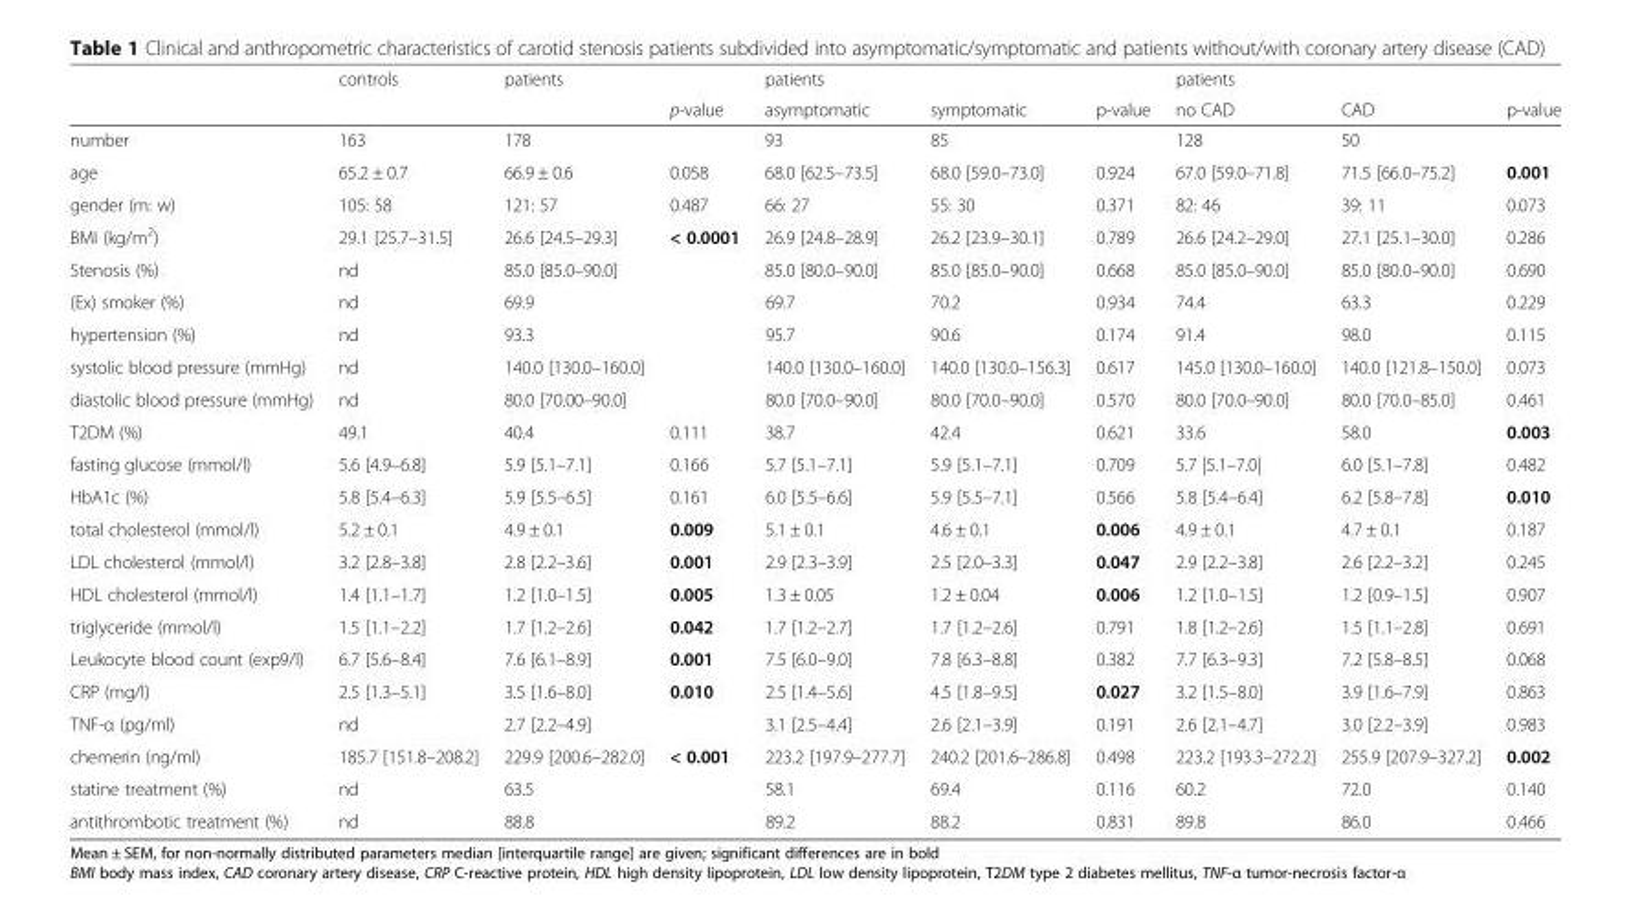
<table><thead><tr><td rowspan="2"></td><td rowspan="2">controls</td><td rowspan="2">patients</td><td rowspan="2">p-value</td><td rowspan="2">patients asymptomatic</td><td rowspan="2">symptomatic</td><td rowspan="2">p-value</td><td rowspan="2">patients no CAD</td><td rowspan="2">CAD</td><td rowspan="2">p-value</td></tr><tr></tr></thead><tbody><tr><td>number</td><td>163</td><td>178</td><td></td><td>93</td><td>85</td><td></td><td>128</td><td>50</td><td></td></tr><tr><td>age</td><td>65.2 ± 0.7</td><td>66.9 ± 0.6</td><td>0.058</td><td>68.0 [62.5–73.5]</td><td>68.0 [59.0–73.0]</td><td>0.924</td><td>67.0 [59.0–71.8]</td><td>71.5 [66.0–75.2]</td><td>0.001</td></tr><tr><td>gender (m: w)</td><td>105: 58</td><td>121: 57</td><td>0.487</td><td>66: 27</td><td>55: 30</td><td>0.371</td><td>82: 46</td><td>39: 11</td><td>0.073</td></tr><tr><td>BMI (kg/m<sup>2</sup>)</td><td>29.1 [25.7–31.5]</td><td>26.6 [24.5–29.3]</td><td>&lt; 0.0001</td><td>26.9 [24.8–28.9]</td><td>26.2 [23.9–30.1]</td><td>0.789</td><td>26.6 [24.2–29.0]</td><td>27.1 [25.1–30.0]</td><td>0.286</td></tr><tr><td>Stenosis (%)</td><td>nd</td><td>85.0 [85.0–90.0]</td><td></td><td>85.0 [80.0–90.0]</td><td>85.0 [85.0–90.0]</td><td>0.668</td><td>85.0 [85.0–90.0]</td><td>85.0 [80.0–90.0]</td><td>0.690</td></tr><tr><td>(Ex) smoker (%)</td><td>nd</td><td>69.9</td><td></td><td>69.7</td><td>70.2</td><td>0.934</td><td>74.4</td><td>63.3</td><td>0.229</td></tr><tr><td>hypertension (%)</td><td>nd</td><td>93.3</td><td></td><td>95.7</td><td>90.6</td><td>0.174</td><td>91.4</td><td>98.0</td><td>0.115</td></tr><tr><td>systolic blood pressure (mmHg)</td><td>nd</td><td>140.0 [130.0–160.0]</td><td></td><td>140.0 [130.0–160.0]</td><td>140.0 [130.0–156.3]</td><td>0.617</td><td>145.0 [130.0–160.0]</td><td>140.0 [121.8–150.0]</td><td>0.073</td></tr><tr><td>diastolic blood pressure (mmHg)</td><td>nd</td><td>80.0 [70.00–90.0]</td><td></td><td>80.0 [70.0–90.0]</td><td>80.0 [70.0–90.0]</td><td>0.570</td><td>80.0 [70.0–90.0]</td><td>80.0 [70.0–85.0]</td><td>0.461</td></tr><tr><td>T2DM (%)</td><td>49.1</td><td>40.4</td><td>0.111</td><td>38.7</td><td>42.4</td><td>0.621</td><td>33.6</td><td>58.0</td><td>0.003</td></tr><tr><td>fasting glucose (mmol/l)</td><td>5.6 [4.9–6.8]</td><td>5.9 [5.1–7.1]</td><td>0.166</td><td>5.7 [5.1–7.1]</td><td>5.9 [5.1–7.1]</td><td>0.709</td><td>5.7 |5.1–7.0|</td><td>6.0 [5.1–7.8]</td><td>0.482</td></tr><tr><td>HbA1c (%)</td><td>5.8 [5.4–6.3]</td><td>5.9 [5.5–6.5]</td><td>0.161</td><td>6.0 [5.5–6.6]</td><td>5.9 [5.5–7.1]</td><td>0.566</td><td>5.8 [5.4–6.4]</td><td>6.2 [5.8–7.8]</td><td>0.010</td></tr><tr><td>total cholesterol (mmol/l)</td><td>5.2 ± 0.1</td><td>4.9 ± 0.1</td><td>0.009</td><td>5.1 ± 0.1</td><td>4.6 ± 0.1</td><td>0.006</td><td>4.9 ± 0.1</td><td>4.7 ± 0.1</td><td>0.187</td></tr><tr><td>LDL cholesterol (mmol/l)</td><td>3.2 [2.8–3.8]</td><td>2.8 [2.2–3.6]</td><td>0.001</td><td>2.9 [2.3–3.9]</td><td>2.5 [2.0–3.3]</td><td>0.047</td><td>2.9 [2.2–3.8]</td><td>2.6 [2.2–3.2]</td><td>0.245</td></tr><tr><td>HDL cholesterol (mmol/l)</td><td>1.4 [1.1–1.7]</td><td>1.2 [1.0–1.5]</td><td>0.005</td><td>1.3 ± 0.05</td><td>1.2 ± 0.04</td><td>0.006</td><td>1.2 [1.0–1.5]</td><td>1.2 [0.9–1.5]</td><td>0.907</td></tr><tr><td>triglyceride (mmol/l)</td><td>1.5 [1.1–2.2]</td><td>1.7 [1.2–2.6]</td><td>0.042</td><td>1.7 [1.2–2.7]</td><td>1.7 [1.2–2.6]</td><td>0.791</td><td>1.8 [1.2–2.6]</td><td>1.5 [1.1–2.8]</td><td>0.691</td></tr><tr><td>Leukocyte blood count (exp9/l)</td><td>6.7 [5.6–8.4]</td><td>7.6 [6.1–8.9]</td><td>0.001</td><td>7.5 [6.0–9.0]</td><td>7.8 [6.3–8.8]</td><td>0.382</td><td>7.7 [6.3–9.3]</td><td>7.2 [5.8–8.5]</td><td>0.068</td></tr><tr><td>CRP (mg/l)</td><td>2.5 [1.3–5.1]</td><td>3.5 [1.6–8.0]</td><td>0.010</td><td>2.5 [1.4–5.6]</td><td>4.5 [1.8–9.5]</td><td>0.027</td><td>3.2 [1.5–8.0]</td><td>3.9 [1.6–7.9]</td><td>0.863</td></tr><tr><td>TNF-α (pg/ml)</td><td>nd</td><td>2.7 [2.2–4.9]</td><td></td><td>3.1 [2.5–4.4]</td><td>2.6 [2.1–3.9]</td><td>0.191</td><td>2.6 [2.1–4.7]</td><td>3.0 [2.2–3.9]</td><td>0.983</td></tr><tr><td>chemerin (ng/ml)</td><td>185.7 [151.8–208.2]</td><td>229.9 [200.6–282.0]</td><td>&lt; 0.001</td><td>223.2 [197.9–277.7]</td><td>240.2 [201.6–286.8]</td><td>0.498</td><td>223.2 [193.3–272.2]</td><td>255.9 [207.9–327.2]</td><td>0.002</td></tr><tr><td>statine treatment (%)</td><td>nd</td><td>63.5</td><td></td><td>58.1</td><td>69.4</td><td>0.116</td><td>60.2</td><td>72.0</td><td>0.140</td></tr><tr><td>antithrombotic treatment (%)</td><td>nd</td><td>88.8</td><td></td><td>89.2</td><td>88.2</td><td>0.831</td><td>89.8</td><td>86.0</td><td>0.466</td></tr></tbody></table>